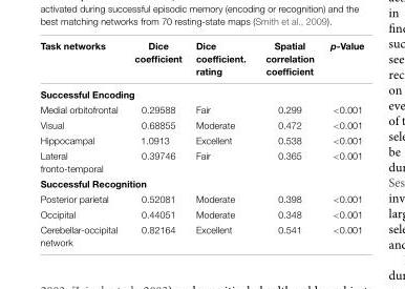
<table><thead><tr><td>Task networks</td><td>Dice coefficient</td><td>Dice coefficient. rating</td><td>Spatial correlation coefficient</td><td>p-Value</td></tr></thead><tbody><tr><td colspan="5">Successful Encoding</td></tr><tr><td>Medial orbitofrontal</td><td>0.29588</td><td>Fair</td><td>0.299</td><td>&lt;0.001</td></tr><tr><td>Visual</td><td>0.68855</td><td>Moderate</td><td>0.472</td><td>&lt;0.001</td></tr><tr><td>Hippocampal</td><td>1.0913</td><td>Excellent</td><td>0.538</td><td>&lt;0.001</td></tr><tr><td>Lateral fronto-temporal</td><td>0.39746</td><td>Fair</td><td>0.365</td><td>&lt;0.001</td></tr><tr><td colspan="5">Successful Recognition</td></tr><tr><td>Posterior parietal</td><td>0.52081</td><td>Moderate</td><td>0.398</td><td>&lt;0.001</td></tr><tr><td>Occipital</td><td>0.44051</td><td>Moderate</td><td>0.348</td><td>&lt;0.001</td></tr><tr><td>Cerebellar-occipital network</td><td>0.82164</td><td>Excellent</td><td>0.541</td><td>&lt;0.001</td></tr></tbody></table>